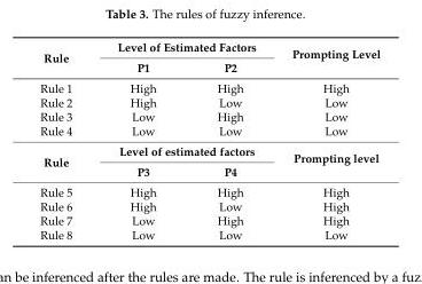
<table><thead><tr><td rowspan="2">Rule</td><td colspan="2">Level of Estimated Factors</td><td rowspan="2">Prompting Level</td></tr><tr><td>P1</td><td>P2</td></tr></thead><tbody><tr><td>Rule 1</td><td>High</td><td>High</td><td>High</td></tr><tr><td>Rule 2</td><td>High</td><td>Low</td><td>Low</td></tr><tr><td>Rule 3</td><td>Low</td><td>High</td><td>Low</td></tr><tr><td>Rule 4</td><td>Low</td><td>Low</td><td>Low</td></tr><tr><td rowspan="2">Rule</td><td colspan="2">Level of estimated factors</td><td rowspan="2">Prompting level</td></tr><tr><td>P3</td><td>P4</td></tr><tr><td>Rule 5</td><td>High</td><td>High</td><td>High</td></tr><tr><td>Rule 6</td><td>High</td><td>Low</td><td>High</td></tr><tr><td>Rule 7</td><td>Low</td><td>High</td><td>High</td></tr><tr><td>Rule 8</td><td>Low</td><td>Low</td><td>Low</td></tr></tbody></table>